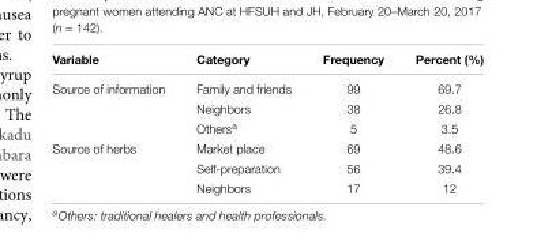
<table><thead><tr><td>Variable</td><td>Category</td><td>Frequency</td><td>Percent (%)</td></tr></thead><tbody><tr><td rowspan="3">Source of information</td><td>Family and friends</td><td>99</td><td>69.7</td></tr><tr><td>Neighbors</td><td>38</td><td>26.8</td></tr><tr><td>Others<sup>a</sup></td><td>5</td><td>3.5</td></tr><tr><td rowspan="3">Source of herbs</td><td>Market place</td><td>69</td><td>48.6</td></tr><tr><td>Self-preparation</td><td>56</td><td>39.4</td></tr><tr><td>Neighbors</td><td>17</td><td>12</td></tr></tbody></table>